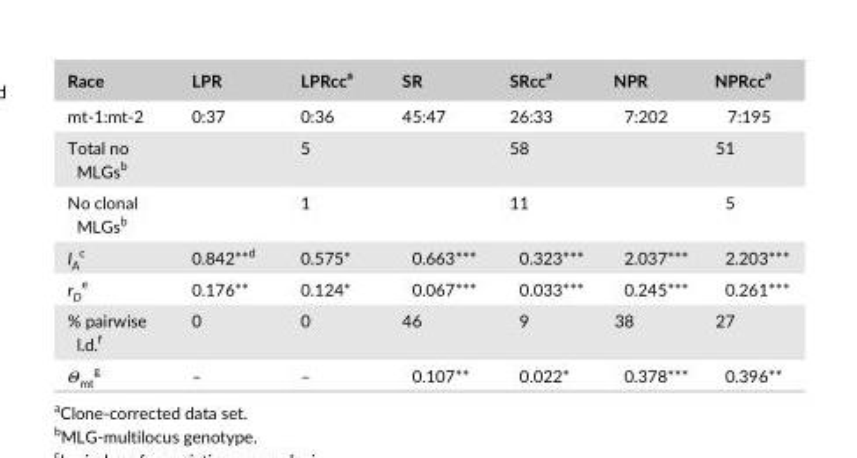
<table><thead><tr><td>Race</td><td>LPR</td><td>LPRcc<sup>a</sup></td><td>SR</td><td>SRcc<sup>a</sup></td><td>NPR</td><td>NPRcc<sup>a</sup></td></tr></thead><tbody><tr><td>mt- 1:mt- 2</td><td>0:37</td><td>0:36</td><td>45:47</td><td>26:33</td><td>7:202</td><td>7:195</td></tr><tr><td>Total no MLGs<sup>b</sup></td><td></td><td>5</td><td></td><td>58</td><td></td><td>51</td></tr><tr><td>No clonal MLGs<sup>b</sup></td><td></td><td>1</td><td></td><td>11</td><td></td><td>5</td></tr><tr><td>I<sub>A</sub> c</td><td>0.842**d</td><td>0.575*</td><td>0.663***</td><td>0.323***</td><td>2.037***</td><td>2.203***</td></tr><tr><td>r<sub>D</sub> e</td><td>0.176**</td><td>0.124*</td><td>0.067***</td><td>0.033***</td><td>0.245***</td><td>0.261***</td></tr><tr><td>% pairwise l.d.<sup>f</sup></td><td>0</td><td>0</td><td>46</td><td>9</td><td>38</td><td>27</td></tr><tr><td>Θ<sub>mt</sub> g</td><td>–</td><td>–</td><td>0.107**</td><td>0.022*</td><td>0.378***</td><td>0.396**</td></tr></tbody></table>